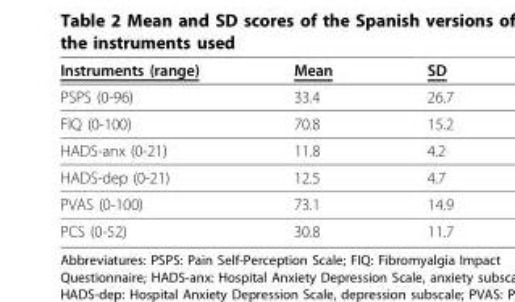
<table><thead><tr><td>Instruments (range)</td><td>Mean</td><td>SD</td></tr></thead><tbody><tr><td>PSPS (0-96)</td><td>33.4</td><td>26.7</td></tr><tr><td>FIQ (0-100)</td><td>70.8</td><td>15.2</td></tr><tr><td>HADS-anx (0-21)</td><td>11.8</td><td>4.2</td></tr><tr><td>HADS-dep (0-21)</td><td>12.5</td><td>4.7</td></tr><tr><td>PVAS (0-100)</td><td>73.1</td><td>14.9</td></tr><tr><td>PCS (0-52)</td><td>30.8</td><td>11.7</td></tr></tbody></table>